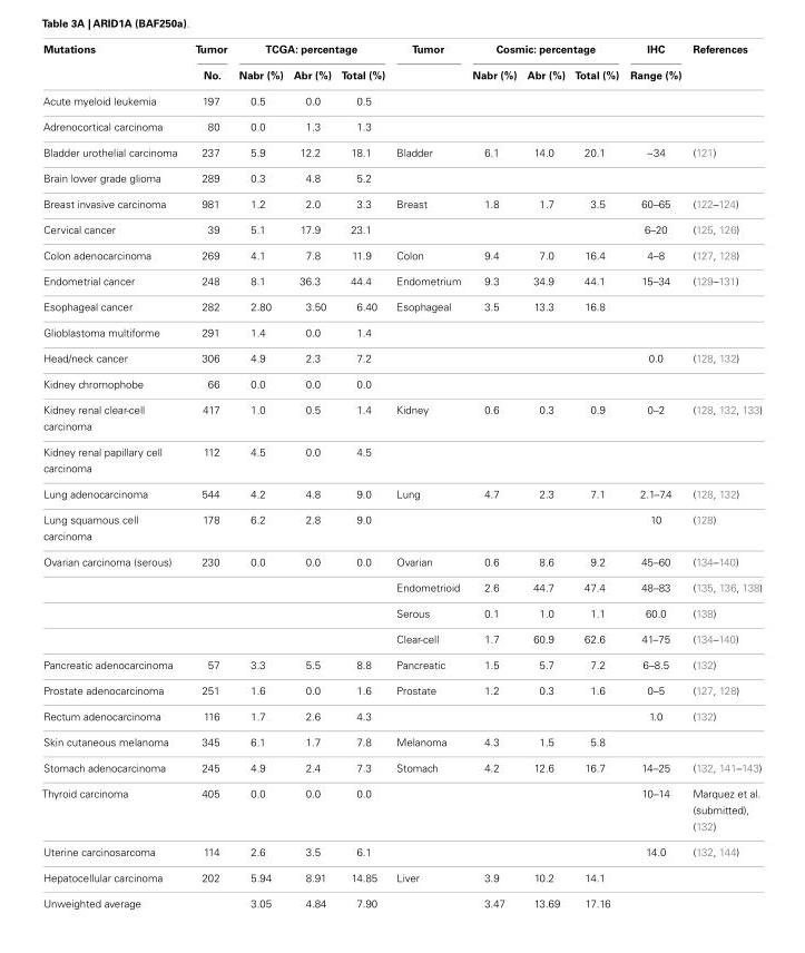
<table><thead><tr><td rowspan="2">Mutations</td><td rowspan="2">Tumor No.</td><td colspan="3">TCGA: percentage</td><td rowspan="2">Tumor</td><td colspan="3">Cosmic: percentage</td><td rowspan="2">IHC Range (%)</td><td rowspan="2">References</td></tr><tr><td>Nabr (%)</td><td>Abr (%)</td><td>Total (%)</td><td>Nabr (%)</td><td>Abr (%)</td><td>Total (%)</td></tr></thead><tbody><tr><td>Acute myeloid leukemia</td><td>197</td><td>0.5</td><td>0.0</td><td>0.5</td><td></td><td></td><td></td><td></td><td></td><td></td></tr><tr><td>Adrenocortical carcinoma</td><td>80</td><td>0.0</td><td>1.3</td><td>1.3</td><td></td><td></td><td></td><td></td><td></td><td></td></tr><tr><td>Bladder urothelial carcinoma</td><td>237</td><td>5.9</td><td>12.2</td><td>18.1</td><td>Bladder</td><td>6.1</td><td>14.0</td><td>20.1</td><td>~34</td><td>(121)</td></tr><tr><td>Brain lower grade glioma</td><td>289</td><td>0.3</td><td>4.8</td><td>5.2</td><td></td><td></td><td></td><td></td><td></td><td></td></tr><tr><td>Breast invasive carcinoma</td><td>981</td><td>1.2</td><td>2.0</td><td>3.3</td><td>Breast</td><td>1.8</td><td>1.7</td><td>3.5</td><td>60–65</td><td>(122–124)</td></tr><tr><td>Cervical cancer</td><td>39</td><td>5.1</td><td>17.9</td><td>23.1</td><td></td><td></td><td></td><td></td><td>6–20</td><td>(125, 126)</td></tr><tr><td>Colon adenocarcinoma</td><td>269</td><td>4.1</td><td>7.8</td><td>11.9</td><td>Colon</td><td>9.4</td><td>7.0</td><td>16.4</td><td>4–8</td><td>(127, 128)</td></tr><tr><td>Endometrial cancer</td><td>248</td><td>8.1</td><td>36.3</td><td>44.4</td><td>Endometrium</td><td>9.3</td><td>34.9</td><td>44.1</td><td>15–34</td><td>(129–131)</td></tr><tr><td>Esophageal cancer</td><td>282</td><td>2.80</td><td>3.50</td><td>6.40</td><td>Esophageal</td><td>3.5</td><td>13.3</td><td>16.8</td><td></td><td></td></tr><tr><td>Glioblastoma multiforme</td><td>291</td><td>1.4</td><td>0.0</td><td>1.4</td><td></td><td></td><td></td><td></td><td></td><td></td></tr><tr><td>Head/neck cancer</td><td>306</td><td>4.9</td><td>2.3</td><td>7.2</td><td></td><td></td><td></td><td></td><td>0.0</td><td>(128, 132)</td></tr><tr><td>Kidney chromophobe</td><td>66</td><td>0.0</td><td>0.0</td><td>0.0</td><td></td><td></td><td></td><td></td><td></td><td></td></tr><tr><td>Kidney renal clear-cell carcinoma</td><td>417</td><td>1.0</td><td>0.5</td><td>1.4</td><td>Kidney</td><td>0.6</td><td>0.3</td><td>0.9</td><td>0–2</td><td>(128, 132, 133)</td></tr><tr><td>Kidney renal papillary cell carcinoma</td><td>112</td><td>4.5</td><td>0.0</td><td>4.5</td><td></td><td></td><td></td><td></td><td></td><td></td></tr><tr><td>Lung adenocarcinoma</td><td>544</td><td>4.2</td><td>4.8</td><td>9.0</td><td>Lung</td><td>4.7</td><td>2.3</td><td>7.1</td><td>2.1–7.4</td><td>(128, 132)</td></tr><tr><td>Lung squamous cell carcinoma</td><td>178</td><td>6.2</td><td>2.8</td><td>9.0</td><td></td><td></td><td></td><td></td><td>10</td><td>(128)</td></tr><tr><td rowspan="4">Ovarian carcinoma (serous)</td><td>230</td><td>0.0</td><td>0.0</td><td>0.0</td><td>Ovarian</td><td>0.6</td><td>8.6</td><td>9.2</td><td>45–60</td><td>(134–140)</td></tr><tr><td></td><td></td><td></td><td></td><td>Endometrioid</td><td>2.6</td><td>44.7</td><td>47.4</td><td>48–83</td><td>(135, 136, 138)</td></tr><tr><td></td><td></td><td></td><td></td><td>Serous</td><td>0.1</td><td>1.0</td><td>1.1</td><td>60.0</td><td>(138)</td></tr><tr><td></td><td></td><td></td><td></td><td>Clear-cell</td><td>1.7</td><td>60.9</td><td>62.6</td><td>41–75</td><td>(134–140)</td></tr><tr><td>Pancreatic adenocarcinoma</td><td>57</td><td>3.3</td><td>5.5</td><td>8.8</td><td>Pancreatic</td><td>1.5</td><td>5.7</td><td>7.2</td><td>6–8.5</td><td>(132)</td></tr><tr><td>Prostate adenocarcinoma</td><td>251</td><td>1.6</td><td>0.0</td><td>1.6</td><td>Prostate</td><td>1.2</td><td>0.3</td><td>1.6</td><td>0–5</td><td>(127, 128)</td></tr><tr><td>Rectum adenocarcinoma</td><td>116</td><td>1.7</td><td>2.6</td><td>4.3</td><td></td><td></td><td></td><td></td><td>1.0</td><td>(132)</td></tr><tr><td>Skin cutaneous melanoma</td><td>345</td><td>6.1</td><td>1.7</td><td>7.8</td><td>Melanoma</td><td>4.3</td><td>1.5</td><td>5.8</td><td></td><td></td></tr><tr><td>Stomach adenocarcinoma</td><td>245</td><td>4.9</td><td>2.4</td><td>7.3</td><td>Stomach</td><td>4.2</td><td>12.6</td><td>16.7</td><td>14–25</td><td>(132, 141–143)</td></tr><tr><td>Thyroid carcinoma</td><td>405</td><td>0.0</td><td>0.0</td><td>0.0</td><td></td><td></td><td></td><td></td><td>10–14</td><td>Marquez et al. (submitted), (132)</td></tr><tr><td>Uterine carcinosarcoma</td><td>114</td><td>2.6</td><td>3.5</td><td>6.1</td><td></td><td></td><td></td><td></td><td>14.0</td><td>(132, 144)</td></tr><tr><td>Hepatocellular carcinoma</td><td>202</td><td>5.94</td><td>8.91</td><td>14.85</td><td>Liver</td><td>3.9</td><td>10.2</td><td>14.1</td><td></td><td></td></tr><tr><td>Unweighted average</td><td></td><td>3.05</td><td>4.84</td><td>7.90</td><td></td><td>3.47</td><td>13.69</td><td>17.16</td><td></td><td></td></tr></tbody></table>